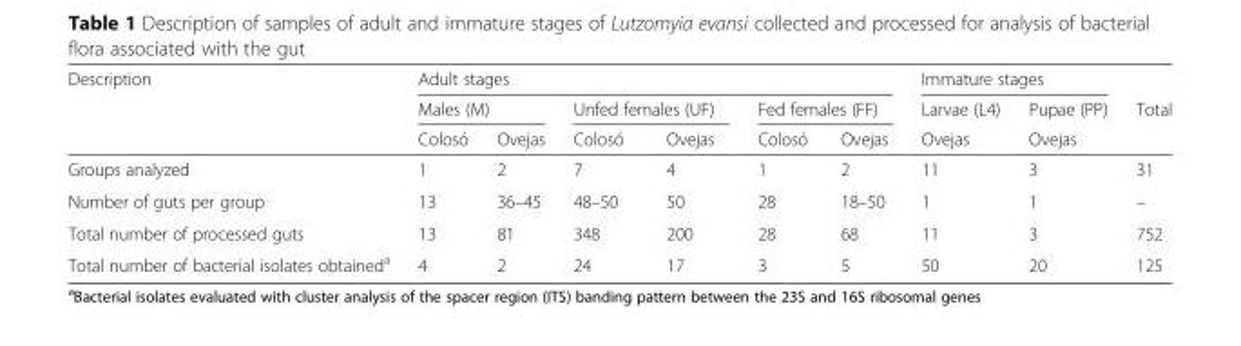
<table><thead><tr><td rowspan="3">Description</td><td colspan="6">Adult stages</td><td colspan="2">Immature stages</td><td rowspan="3">Total</td></tr><tr><td colspan="2">Males (M)</td><td colspan="2">Unfed females (UF)</td><td colspan="2">Fed females (FF)</td><td rowspan="2">Larvae (L4) Ovejas</td><td rowspan="2">Pupae (PP) Ovejas</td></tr><tr><td>Colosó</td><td>Ovejas</td><td>Colosó</td><td>Ovejas</td><td>Colosó</td><td>Ovejas</td></tr></thead><tbody><tr><td>Groups analyzed</td><td>1</td><td>2</td><td>7</td><td>4</td><td>1</td><td>2</td><td>11</td><td>3</td><td>31</td></tr><tr><td>Number of guts per group</td><td>13</td><td>36–45</td><td>48–50</td><td>50</td><td>28</td><td>18–50</td><td>1</td><td>1</td><td>–</td></tr><tr><td>Total number of processed guts</td><td>13</td><td>81</td><td>348</td><td>200</td><td>28</td><td>68</td><td>11</td><td>3</td><td>752</td></tr><tr><td>Total number of bacterial isolates obtained<sup>a</sup></td><td>4</td><td>2</td><td>24</td><td>17</td><td>3</td><td>5</td><td>50</td><td>20</td><td>125</td></tr></tbody></table>